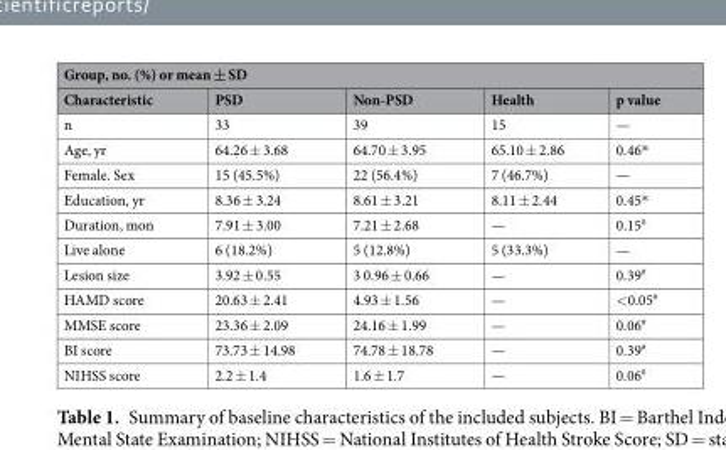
<table><thead><tr><td colspan="5">Group, no. (%) or mean ± SD</td></tr><tr><td>Characteristic</td><td>PSD</td><td>Non-PSD</td><td>Health</td><td>p value</td></tr></thead><tbody><tr><td>n</td><td>33</td><td>39</td><td>15</td><td>—</td></tr><tr><td>Age, yr</td><td>64.26 ± 3.68</td><td>64.70 ± 3.95</td><td>65.10 ± 2.86</td><td>0.46*</td></tr><tr><td>Female. Sex</td><td>15 (45.5%)</td><td>22 (56.4%)</td><td>7 (46.7%)</td><td>—</td></tr><tr><td>Education, yr</td><td>8.36 ± 3.24</td><td>8.61 ± 3.21</td><td>8.11 ± 2.44</td><td>0.45*</td></tr><tr><td>Duration, mon</td><td>7.91 ± 3.00</td><td>7.21 ± 2.68</td><td>—</td><td>0.15<sup>#</sup></td></tr><tr><td>Live alone</td><td>6 (18.2%)</td><td>5 (12.8%)</td><td>5 (33.3%)</td><td>—</td></tr><tr><td>Lesion size</td><td>3.92 ± 0.55</td><td>3 0.96 ± 0.66</td><td>—</td><td>0.39<sup>#</sup></td></tr><tr><td>HAMD score</td><td>20.63 ± 2.41</td><td>4.93 ± 1.56</td><td>—</td><td>&lt;0.05<sup>#</sup></td></tr><tr><td>MMSE score</td><td>23.36 ± 2.09</td><td>24.16 ± 1.99</td><td>—</td><td>0.06<sup>#</sup></td></tr><tr><td>BI score</td><td>73.73 ± 14.98</td><td>74.78 ± 18.78</td><td>—</td><td>0.39<sup>#</sup></td></tr><tr><td>NIHSS score</td><td>2.2 ± 1.4</td><td>1.6 ± 1.7</td><td>—</td><td>0.06<sup>#</sup></td></tr></tbody></table>